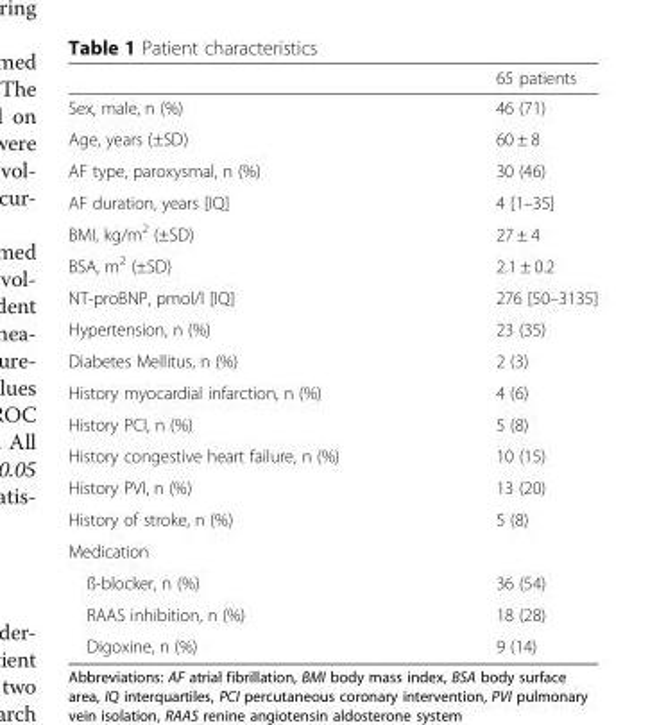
<table><thead><tr><td></td><td>65 patients</td></tr></thead><tbody><tr><td>Sex, male, n (%)</td><td>46 (71)</td></tr><tr><td>Age, years (±SD)</td><td>60 ± 8</td></tr><tr><td>AF type, paroxysmal, n (%)</td><td>30 (46)</td></tr><tr><td>AF duration, years [IQ]</td><td>4 [1–35]</td></tr><tr><td>BMI, kg/m<sup>2</sup> (±SD)</td><td>27 ± 4</td></tr><tr><td>BSA, m<sup>2</sup> (±SD)</td><td>2.1 ± 0.2</td></tr><tr><td>NT-proBNP, pmol/l [IQ]</td><td>276 [50–3135]</td></tr><tr><td>Hypertension, n (%)</td><td>23 (35)</td></tr><tr><td>Diabetes Mellitus, n (%)</td><td>2 (3)</td></tr><tr><td>History myocardial infarction, n (%)</td><td>4 (6)</td></tr><tr><td>History PCI, n (%)</td><td>5 (8)</td></tr><tr><td>History congestive heart failure, n (%)</td><td>10 (15)</td></tr><tr><td>History PVI, n (%)</td><td>13 (20)</td></tr><tr><td>History of stroke, n (%)</td><td>5 (8)</td></tr><tr><td colspan="2">Medication</td></tr><tr><td>ß-blocker, n (%)</td><td>36 (54)</td></tr><tr><td>RAAS inhibition, n (%)</td><td>18 (28)</td></tr><tr><td>Digoxine, n (%)</td><td>9 (14)</td></tr></tbody></table>